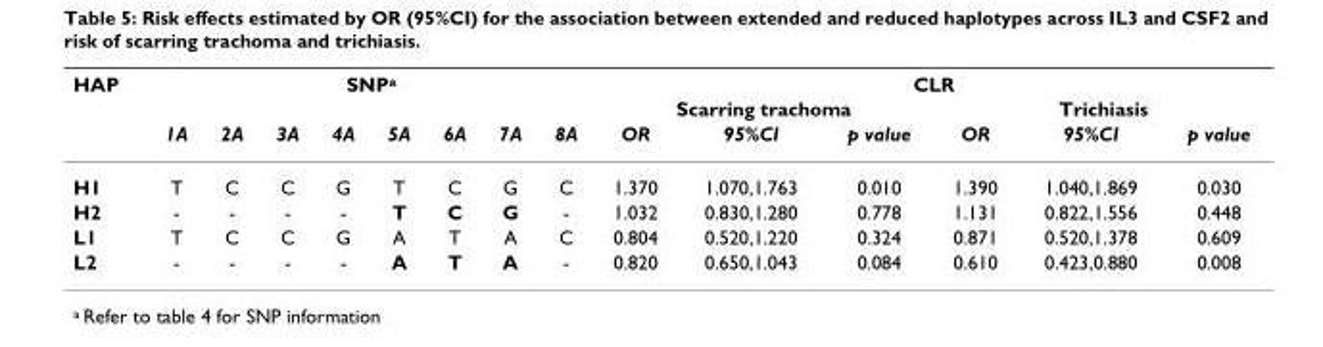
<table><thead><tr><td rowspan="3">HAP</td><td colspan="8">SNP<sup>a</sup></td><td colspan="6">CLR</td></tr><tr><td rowspan="2">1A</td><td rowspan="2">2A</td><td rowspan="2">3A</td><td rowspan="2">4A</td><td rowspan="2">5A</td><td rowspan="2">6A</td><td rowspan="2">7A</td><td rowspan="2">8A</td><td colspan="3">Scarring trachoma</td><td colspan="3">Trichiasis</td></tr><tr><td>OR</td><td>95%CI</td><td>p value</td><td>OR</td><td>95%CI</td><td>p value</td></tr></thead><tbody><tr><td>H1</td><td>T</td><td>C</td><td>C</td><td>G</td><td>T</td><td>C</td><td>G</td><td>C</td><td>1.370</td><td>1.070,1.763</td><td>0.010</td><td>1.390</td><td>1.040,1.869</td><td>0.030</td></tr><tr><td>H2</td><td>-</td><td>-</td><td>-</td><td>-</td><td>T</td><td>C</td><td>G</td><td>-</td><td>1.032</td><td>0.830,1.280</td><td>0.778</td><td>1.131</td><td>0.822,1.556</td><td>0.448</td></tr><tr><td>L1</td><td>T</td><td>C</td><td>C</td><td>G</td><td>A</td><td>T</td><td>A</td><td>C</td><td>0.804</td><td>0.520,1.220</td><td>0.324</td><td>0.871</td><td>0.520,1.378</td><td>0.609</td></tr><tr><td>L2</td><td>-</td><td>-</td><td>-</td><td>-</td><td>A</td><td>T</td><td>A</td><td>-</td><td>0.820</td><td>0.650,1.043</td><td>0.084</td><td>0.610</td><td>0.423,0.880</td><td>0.008</td></tr></tbody></table>